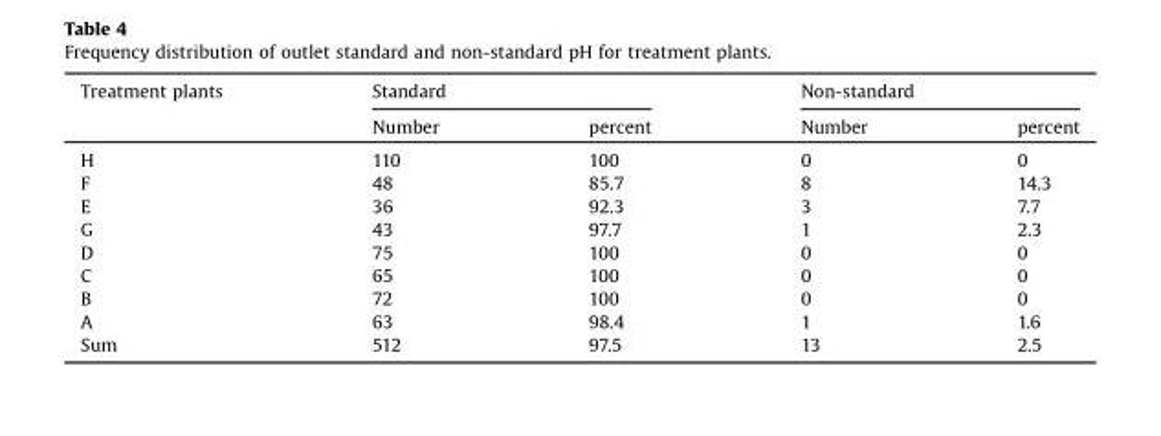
<table><thead><tr><td rowspan="2">Treatment plants</td><td colspan="2">Standard</td><td colspan="2">Non-standard</td></tr><tr><td>Number</td><td>percent</td><td>Number</td><td>percent</td></tr></thead><tbody><tr><td>H</td><td>110</td><td>100</td><td>0</td><td>0</td></tr><tr><td>F</td><td>48</td><td>85.7</td><td>8</td><td>14.3</td></tr><tr><td>E</td><td>36</td><td>92.3</td><td>3</td><td>7.7</td></tr><tr><td>G</td><td>43</td><td>97.7</td><td>1</td><td>2.3</td></tr><tr><td>D</td><td>75</td><td>100</td><td>0</td><td>0</td></tr><tr><td>C</td><td>65</td><td>100</td><td>0</td><td>0</td></tr><tr><td>B</td><td>72</td><td>100</td><td>0</td><td>0</td></tr><tr><td>A</td><td>63</td><td>98.4</td><td>1</td><td>1.6</td></tr><tr><td>Sum</td><td>512</td><td>97.5</td><td>13</td><td>2.5</td></tr></tbody></table>